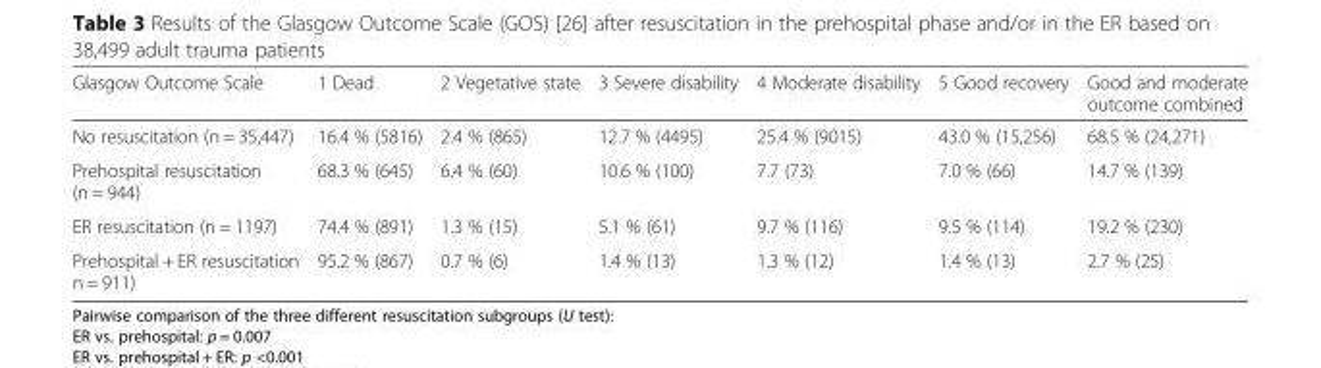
<table><thead><tr><td>Glasgow Outcome Scale</td><td>1 Dead</td><td>2 Vegetative state</td><td>3 Severe disability</td><td>4 Moderate disability</td><td>5 Good recovery</td><td>Good and moderate outcome combined</td></tr></thead><tbody><tr><td>No resuscitation (n = 35,447)</td><td>16.4 % (5816)</td><td>2.4 % (865)</td><td>12.7 % (4495)</td><td>25.4 % (9015)</td><td>43.0 % (15,256)</td><td>68.5 % (24,271)</td></tr><tr><td>Prehospital resuscitation (n = 944)</td><td>68.3 % (645)</td><td>6.4 % (60)</td><td>10.6 % (100)</td><td>7.7 (73)</td><td>7.0 % (66)</td><td>14.7 % (139)</td></tr><tr><td>ER resuscitation (n = 1197)</td><td>74.4 % (891)</td><td>1.3 % (15)</td><td>5.1 % (61)</td><td>9.7 % (116)</td><td>9.5 % (114)</td><td>19.2 % (230)</td></tr><tr><td>Prehospital + ER resuscitation n = 911)</td><td>95.2 % (867)</td><td>0.7 % (6)</td><td>1.4 % (13)</td><td>1.3 % (12)</td><td>1.4 % (13)</td><td>2.7 % (25)</td></tr></tbody></table>